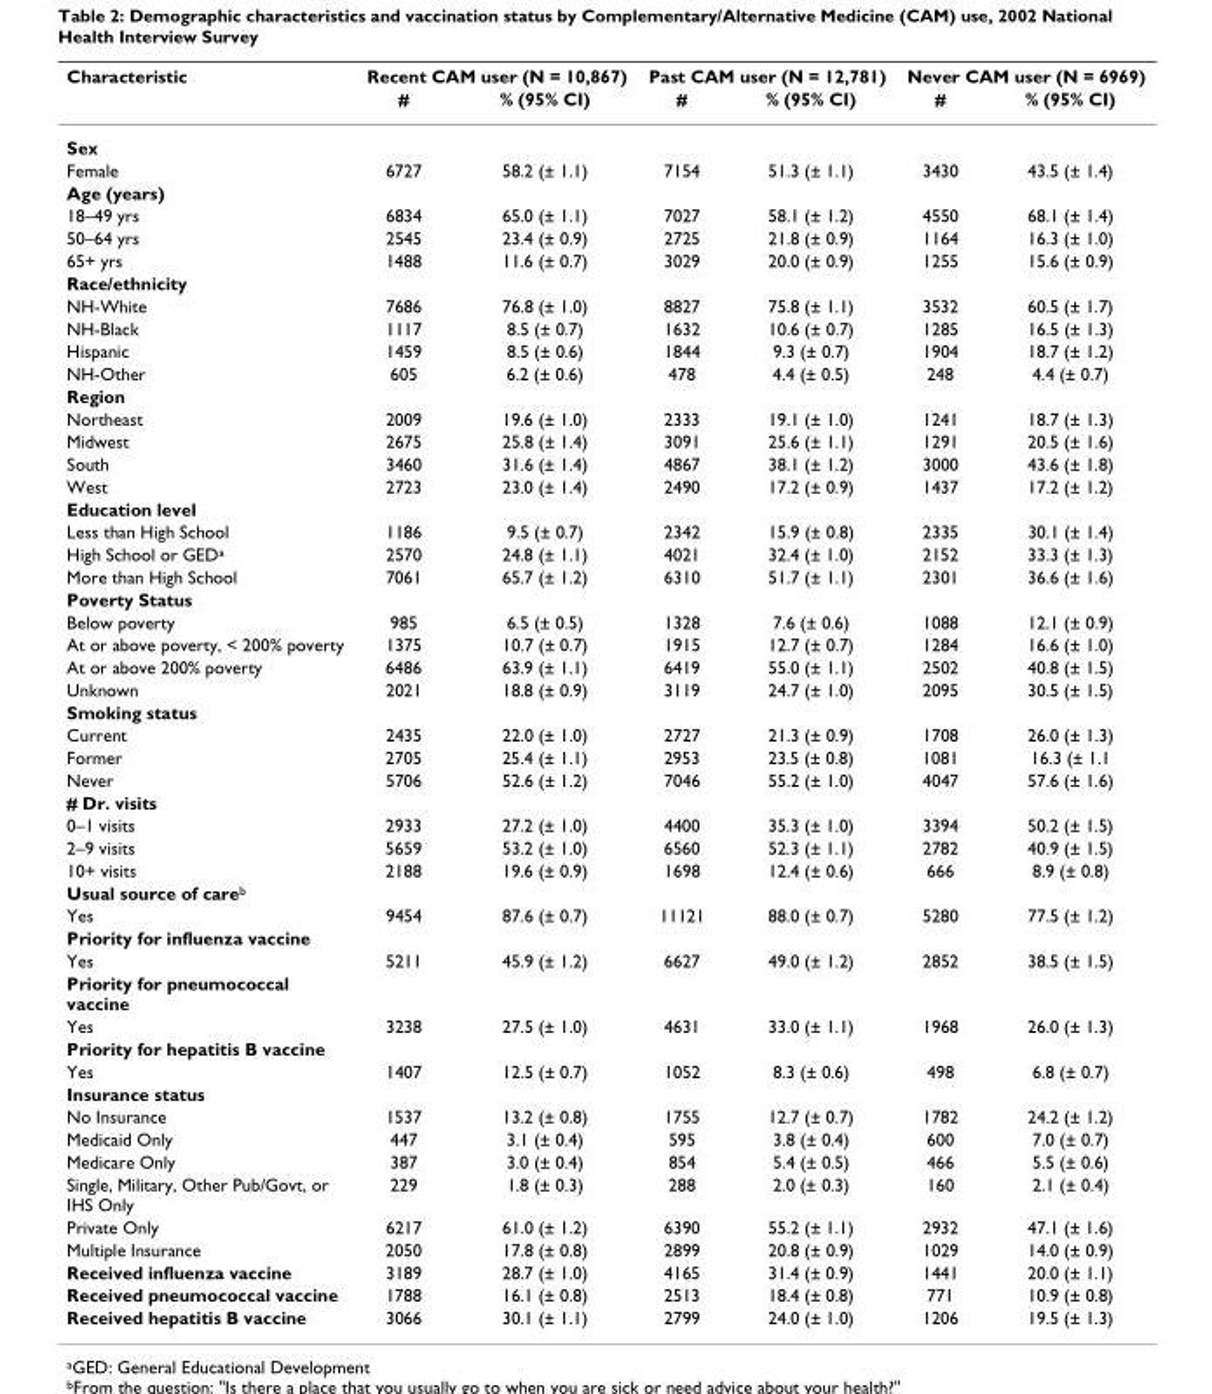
<table><thead><tr><td rowspan="2">Characteristic</td><td colspan="2">Recent CAM user (N = 10,867)</td><td colspan="2">Past CAM user (N = 12,781)</td><td colspan="2">Never CAM user (N = 6969)</td></tr><tr><td>#</td><td>% (95% CI)</td><td>#</td><td>% (95% CI)</td><td>#</td><td>% (95% CI)</td></tr></thead><tbody><tr><td colspan="7">Sex</td></tr><tr><td>Female</td><td>6727</td><td>58.2 (± 1.1)</td><td>7154</td><td>51.3 (± 1.1)</td><td>3430</td><td>43.5 (± 1.4)</td></tr><tr><td colspan="7">Age (years)</td></tr><tr><td>18–49 yrs</td><td>6834</td><td>65.0 (± 1.1)</td><td>7027</td><td>58.1 (± 1.2)</td><td>4550</td><td>68.1 (± 1.4)</td></tr><tr><td>50–64 yrs</td><td>2545</td><td>23.4 (± 0.9)</td><td>2725</td><td>21.8 (± 0.9)</td><td>1164</td><td>16.3 (± 1.0)</td></tr><tr><td>65+ yrs</td><td>1488</td><td>11.6 (± 0.7)</td><td>3029</td><td>20.0 (± 0.9)</td><td>1255</td><td>15.6 (± 0.9)</td></tr><tr><td colspan="7">Race/ethnicity</td></tr><tr><td>NH-White</td><td>7686</td><td>76.8 (± 1.0)</td><td>8827</td><td>75.8 (± 1.1)</td><td>3532</td><td>60.5 (± 1.7)</td></tr><tr><td>NH-Black</td><td>1117</td><td>8.5 (± 0.7)</td><td>1632</td><td>10.6 (± 0.7)</td><td>1285</td><td>16.5 (± 1.3)</td></tr><tr><td>Hispanic</td><td>1459</td><td>8.5 (± 0.6)</td><td>1844</td><td>9.3 (± 0.7)</td><td>1904</td><td>18.7 (± 1.2)</td></tr><tr><td>NH-Other</td><td>605</td><td>6.2 (± 0.6)</td><td>478</td><td>4.4 (± 0.5)</td><td>248</td><td>4.4 (± 0.7)</td></tr><tr><td colspan="7">Region</td></tr><tr><td>Northeast</td><td>2009</td><td>19.6 (± 1.0)</td><td>2333</td><td>19.1 (± 1.0)</td><td>1241</td><td>18.7 (± 1.3)</td></tr><tr><td>Midwest</td><td>2675</td><td>25.8 (± 1.4)</td><td>3091</td><td>25.6 (± 1.1)</td><td>1291</td><td>20.5 (± 1.6)</td></tr><tr><td>South</td><td>3460</td><td>31.6 (± 1.4)</td><td>4867</td><td>38.1 (± 1.2)</td><td>3000</td><td>43.6 (± 1.8)</td></tr><tr><td>West</td><td>2723</td><td>23.0 (± 1.4)</td><td>2490</td><td>17.2 (± 0.9)</td><td>1437</td><td>17.2 (± 1.2)</td></tr><tr><td colspan="7">Education level</td></tr><tr><td>Less than High School</td><td>1186</td><td>9.5 (± 0.7)</td><td>2342</td><td>15.9 (± 0.8)</td><td>2335</td><td>30.1 (± 1.4)</td></tr><tr><td>High School or GED<sup>a</sup></td><td>2570</td><td>24.8 (± 1.1)</td><td>4021</td><td>32.4 (± 1.0)</td><td>2152</td><td>33.3 (± 1.3)</td></tr><tr><td>More than High School</td><td>7061</td><td>65.7 (± 1.2)</td><td>6310</td><td>51.7 (± 1.1)</td><td>2301</td><td>36.6 (± 1.6)</td></tr><tr><td colspan="7">Poverty Status</td></tr><tr><td>Below poverty</td><td>985</td><td>6.5 (± 0.5)</td><td>1328</td><td>7.6 (± 0.6)</td><td>1088</td><td>12.1 (± 0.9)</td></tr><tr><td>At or above poverty, &lt; 200% poverty</td><td>1375</td><td>10.7 (± 0.7)</td><td>1915</td><td>12.7 (± 0.7)</td><td>1284</td><td>16.6 (± 1.0)</td></tr><tr><td>At or above 200% poverty</td><td>6486</td><td>63.9 (± 1.1)</td><td>6419</td><td>55.0 (± 1.1)</td><td>2502</td><td>40.8 (± 1.5)</td></tr><tr><td>Unknown</td><td>2021</td><td>18.8 (± 0.9)</td><td>3119</td><td>24.7 (± 1.0)</td><td>2095</td><td>30.5 (± 1.5)</td></tr><tr><td colspan="7">Smoking status</td></tr><tr><td>Current</td><td>2435</td><td>22.0 (± 1.0)</td><td>2727</td><td>21.3 (± 0.9)</td><td>1708</td><td>26.0 (± 1.3)</td></tr><tr><td>Former</td><td>2705</td><td>25.4 (± 1.1)</td><td>2953</td><td>23.5 (± 0.8)</td><td>1081</td><td>16.3 (± 1.1</td></tr><tr><td>Never</td><td>5706</td><td>52.6 (± 1.2)</td><td>7046</td><td>55.2 (± 1.0)</td><td>4047</td><td>57.6 (± 1.6)</td></tr><tr><td colspan="7"># Dr. visits</td></tr><tr><td>0–1 visits</td><td>2933</td><td>27.2 (± 1.0)</td><td>4400</td><td>35.3 (± 1.0)</td><td>3394</td><td>50.2 (± 1.5)</td></tr><tr><td>2–9 visits</td><td>5659</td><td>53.2 (± 1.0)</td><td>6560</td><td>52.3 (± 1.1)</td><td>2782</td><td>40.9 (± 1.5)</td></tr><tr><td>10+ visits</td><td>2188</td><td>19.6 (± 0.9)</td><td>1698</td><td>12.4 (± 0.6)</td><td>666</td><td>8.9 (± 0.8)</td></tr><tr><td colspan="7">Usual source of care<sup>b</sup></td></tr><tr><td>Yes</td><td>9454</td><td>87.6 (± 0.7)</td><td>11121</td><td>88.0 (± 0.7)</td><td>5280</td><td>77.5 (± 1.2)</td></tr><tr><td colspan="7">Priority for influenza vaccine</td></tr><tr><td>Yes</td><td>5211</td><td>45.9 (± 1.2)</td><td>6627</td><td>49.0 (± 1.2)</td><td>2852</td><td>38.5 (± 1.5)</td></tr><tr><td colspan="7">Priority for pneumococcal vaccine</td></tr><tr><td>Yes</td><td>3238</td><td>27.5 (± 1.0)</td><td>4631</td><td>33.0 (± 1.1)</td><td>1968</td><td>26.0 (± 1.3)</td></tr><tr><td colspan="7">Priority for hepatitis B vaccine</td></tr><tr><td>Yes</td><td>1407</td><td>12.5 (± 0.7)</td><td>1052</td><td>8.3 (± 0.6)</td><td>498</td><td>6.8 (± 0.7)</td></tr><tr><td colspan="7">Insurance status</td></tr><tr><td>No Insurance</td><td>1537</td><td>13.2 (± 0.8)</td><td>1755</td><td>12.7 (± 0.7)</td><td>1782</td><td>24.2 (± 1.2)</td></tr><tr><td>Medicaid Only</td><td>447</td><td>3.1 (± 0.4)</td><td>595</td><td>3.8 (± 0.4)</td><td>600</td><td>7.0 (± 0.7)</td></tr><tr><td>Medicare Only</td><td>387</td><td>3.0 (± 0.4)</td><td>854</td><td>5.4 (± 0.5)</td><td>466</td><td>5.5 (± 0.6)</td></tr><tr><td>Single, Military, Other Pub/Govt, or IHS Only</td><td>229</td><td>1.8 (± 0.3)</td><td>288</td><td>2.0 (± 0.3)</td><td>160</td><td>2.1 (± 0.4)</td></tr><tr><td>Private Only</td><td>6217</td><td>61.0 (± 1.2)</td><td>6390</td><td>55.2 (± 1.1)</td><td>2932</td><td>47.1 (± 1.6)</td></tr><tr><td>Multiple Insurance</td><td>2050</td><td>17.8 (± 0.8)</td><td>2899</td><td>20.8 (± 0.9)</td><td>1029</td><td>14.0 (± 0.9)</td></tr><tr><td>Received influenza vaccine</td><td>3189</td><td>28.7 (± 1.0)</td><td>4165</td><td>31.4 (± 0.9)</td><td>1441</td><td>20.0 (± 1.1)</td></tr><tr><td>Received pneumococcal vaccine</td><td>1788</td><td>16.1 (± 0.8)</td><td>2513</td><td>18.4 (± 0.8)</td><td>771</td><td>10.9 (± 0.8)</td></tr><tr><td>Received hepatitis B vaccine</td><td>3066</td><td>30.1 (± 1.1)</td><td>2799</td><td>24.0 (± 1.0)</td><td>1206</td><td>19.5 (± 1.3)</td></tr></tbody></table>